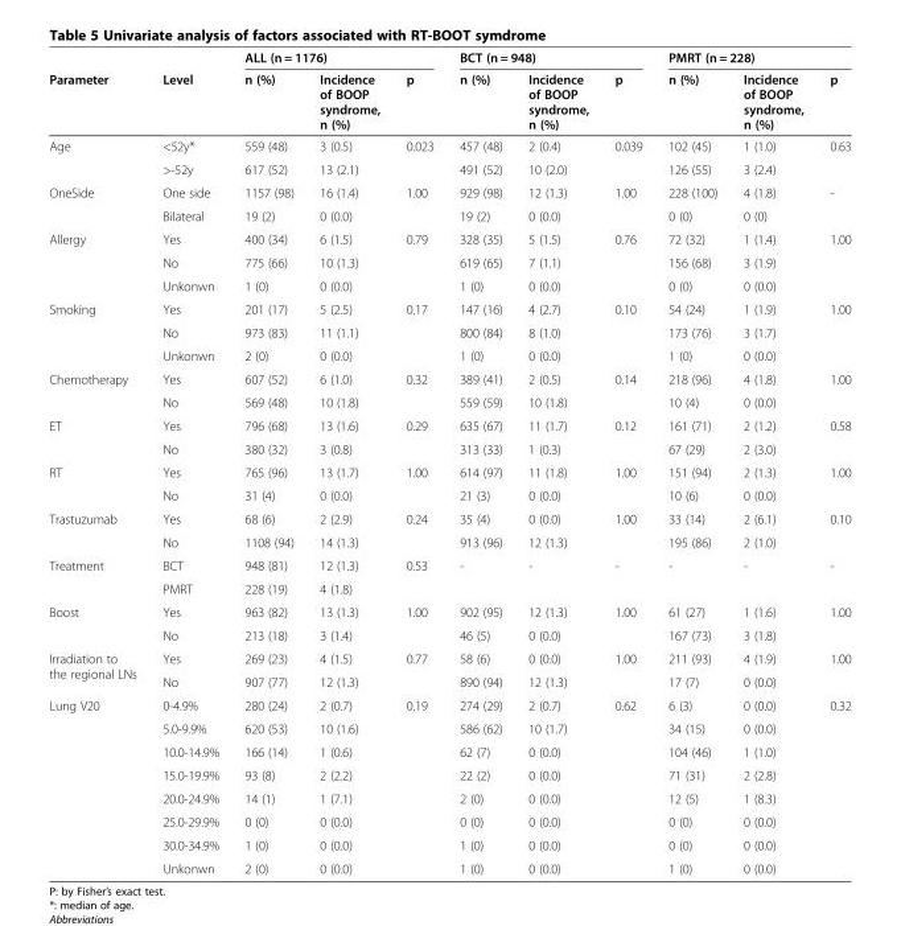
<table><thead><tr><td rowspan="2">Parameter</td><td rowspan="2">Level</td><td colspan="3">ALL (n = 1176)</td><td colspan="3">BCT (n = 948)</td><td colspan="3">PMRT (n = 228)</td></tr><tr><td>n (%)</td><td>Incidence of BOOP syndrome, n (%)</td><td>p</td><td>n (%)</td><td>Incidence of BOOP syndrome, n (%)</td><td>p</td><td>n (%)</td><td>Incidence of BOOP syndrome, n (%)</td><td>p</td></tr></thead><tbody><tr><td rowspan="2">Age</td><td>&lt;52y*</td><td>559 (48)</td><td>3 (0.5)</td><td>0.023</td><td>457 (48)</td><td>2 (0.4)</td><td>0.039</td><td>102 (45)</td><td>1 (1.0)</td><td>0.63</td></tr><tr><td>&gt;-52y</td><td>617 (52)</td><td>13 (2.1)</td><td></td><td>491 (52)</td><td>10 (2.0)</td><td></td><td>126 (55)</td><td>3 (2.4)</td><td></td></tr><tr><td rowspan="2">OneSide</td><td>One side</td><td>1157 (98)</td><td>16 (1.4)</td><td>1.00</td><td>929 (98)</td><td>12 (1.3)</td><td>1.00</td><td>228 (100)</td><td>4 (1.8)</td><td>-</td></tr><tr><td>Bilateral</td><td>19 (2)</td><td>0 (0.0)</td><td></td><td>19 (2)</td><td>0 (0.0)</td><td></td><td>0 (0)</td><td>0 (0)</td><td></td></tr><tr><td rowspan="3">Allergy</td><td>Yes</td><td>400 (34)</td><td>6 (1.5)</td><td>0.79</td><td>328 (35)</td><td>5 (1.5)</td><td>0.76</td><td>72 (32)</td><td>1 (1.4)</td><td>1.00</td></tr><tr><td>No</td><td>775 (66)</td><td>10 (1.3)</td><td></td><td>619 (65)</td><td>7 (1.1)</td><td></td><td>156 (68)</td><td>3 (1.9)</td><td></td></tr><tr><td>Unkonwn</td><td>1 (0)</td><td>0 (0.0)</td><td></td><td>1 (0)</td><td>0 (0.0)</td><td></td><td>0 (0)</td><td>0 (0.0)</td><td></td></tr><tr><td rowspan="3">Smoking</td><td>Yes</td><td>201 (17)</td><td>5 (2.5)</td><td>0.17</td><td>147 (16)</td><td>4 (2.7)</td><td>0.10</td><td>54 (24)</td><td>1 (1.9)</td><td>1.00</td></tr><tr><td>No</td><td>973 (83)</td><td>11 (1.1)</td><td></td><td>800 (84)</td><td>8 (1.0)</td><td></td><td>173 (76)</td><td>3 (1.7)</td><td></td></tr><tr><td>Unkonwn</td><td>2 (0)</td><td>0 (0.0)</td><td></td><td>1 (0)</td><td>0 (0.0)</td><td></td><td>1 (0)</td><td>0 (0.0)</td><td></td></tr><tr><td rowspan="2">Chemotherapy</td><td>Yes</td><td>607 (52)</td><td>6 (1.0)</td><td>0.32</td><td>389 (41)</td><td>2 (0.5)</td><td>0.14</td><td>218 (96)</td><td>4 (1.8)</td><td>1.00</td></tr><tr><td>No</td><td>569 (48)</td><td>10 (1.8)</td><td></td><td>559 (59)</td><td>10 (1.8)</td><td></td><td>10 (4)</td><td>0 (0.0)</td><td></td></tr><tr><td rowspan="2">ET</td><td>Yes</td><td>796 (68)</td><td>13 (1.6)</td><td>0.29</td><td>635 (67)</td><td>11 (1.7)</td><td>0.12</td><td>161 (71)</td><td>2 (1.2)</td><td>0.58</td></tr><tr><td>No</td><td>380 (32)</td><td>3 (0.8)</td><td></td><td>313 (33)</td><td>1 (0.3)</td><td></td><td>67 (29)</td><td>2 (3.0)</td><td></td></tr><tr><td rowspan="2">RT</td><td>Yes</td><td>765 (96)</td><td>13 (1.7)</td><td>1.00</td><td>614 (97)</td><td>11 (1.8)</td><td>1.00</td><td>151 (94)</td><td>2 (1.3)</td><td>1.00</td></tr><tr><td>No</td><td>31 (4)</td><td>0 (0.0)</td><td></td><td>21 (3)</td><td>0 (0.0)</td><td></td><td>10 (6)</td><td>0 (0.0)</td><td></td></tr><tr><td rowspan="2">Trastuzumab</td><td>Yes</td><td>68 (6)</td><td>2 (2.9)</td><td>0.24</td><td>35 (4)</td><td>0 (0.0)</td><td>1.00</td><td>33 (14)</td><td>2 (6.1)</td><td>0.10</td></tr><tr><td>No</td><td>1108 (94)</td><td>14 (1.3)</td><td></td><td>913 (96)</td><td>12 (1.3)</td><td></td><td>195 (86)</td><td>2 (1.0)</td><td></td></tr><tr><td rowspan="2">Treatment</td><td>BCT</td><td>948 (81)</td><td>12 (1.3)</td><td>0.53</td><td>-</td><td>-</td><td>-</td><td>-</td><td>-</td><td>-</td></tr><tr><td>PMRT</td><td>228 (19)</td><td>4 (1.8)</td><td></td><td></td><td></td><td></td><td></td><td></td><td></td></tr><tr><td rowspan="2">Boost</td><td>Yes</td><td>963 (82)</td><td>13 (1.3)</td><td>1.00</td><td>902 (95)</td><td>12 (1.3)</td><td>1.00</td><td>61 (27)</td><td>1 (1.6)</td><td>1.00</td></tr><tr><td>No</td><td>213 (18)</td><td>3 (1.4)</td><td></td><td>46 (5)</td><td>0 (0.0)</td><td></td><td>167 (73)</td><td>3 (1.8)</td><td></td></tr><tr><td rowspan="2">Irradiation to the regional LNs</td><td>Yes</td><td>269 (23)</td><td>4 (1.5)</td><td>0.77</td><td>58 (6)</td><td>0 (0.0)</td><td>1.00</td><td>211 (93)</td><td>4 (1.9)</td><td>1.00</td></tr><tr><td>No</td><td>907 (77)</td><td>12 (1.3)</td><td></td><td>890 (94)</td><td>12 (1.3)</td><td></td><td>17 (7)</td><td>0 (0.0)</td><td></td></tr><tr><td rowspan="8">Lung V20</td><td>0-4.9%</td><td>280 (24)</td><td>2 (0.7)</td><td>0.19</td><td>274 (29)</td><td>2 (0.7)</td><td>0.62</td><td>6 (3)</td><td>0 (0.0)</td><td>0.32</td></tr><tr><td>5.0-9.9%</td><td>620 (53)</td><td>10 (1.6)</td><td></td><td>586 (62)</td><td>10 (1.7)</td><td></td><td>34 (15)</td><td>0 (0.0)</td><td></td></tr><tr><td>10.0-14.9%</td><td>166 (14)</td><td>1 (0.6)</td><td></td><td>62 (7)</td><td>0 (0.0)</td><td></td><td>104 (46)</td><td>1 (1.0)</td><td></td></tr><tr><td>15.0-19.9%</td><td>93 (8)</td><td>2 (2.2)</td><td></td><td>22 (2)</td><td>0 (0.0)</td><td></td><td>71 (31)</td><td>2 (2.8)</td><td></td></tr><tr><td>20.0-24.9%</td><td>14 (1)</td><td>1 (7.1)</td><td></td><td>2 (0)</td><td>0 (0.0)</td><td></td><td>12 (5)</td><td>1 (8.3)</td><td></td></tr><tr><td>25.0-29.9%</td><td>0 (0)</td><td>0 (0.0)</td><td></td><td>0 (0)</td><td>0 (0.0)</td><td></td><td>0 (0)</td><td>0 (0.0)</td><td></td></tr><tr><td>30.0-34.9%</td><td>1 (0)</td><td>0 (0.0)</td><td></td><td>1 (0)</td><td>0 (0.0)</td><td></td><td>0 (0)</td><td>0 (0.0)</td><td></td></tr><tr><td>Unkonwn</td><td>2 (0)</td><td>0 (0.0)</td><td></td><td>1 (0)</td><td>0 (0.0)</td><td></td><td>1 (0)</td><td>0 (0.0)</td><td></td></tr></tbody></table>